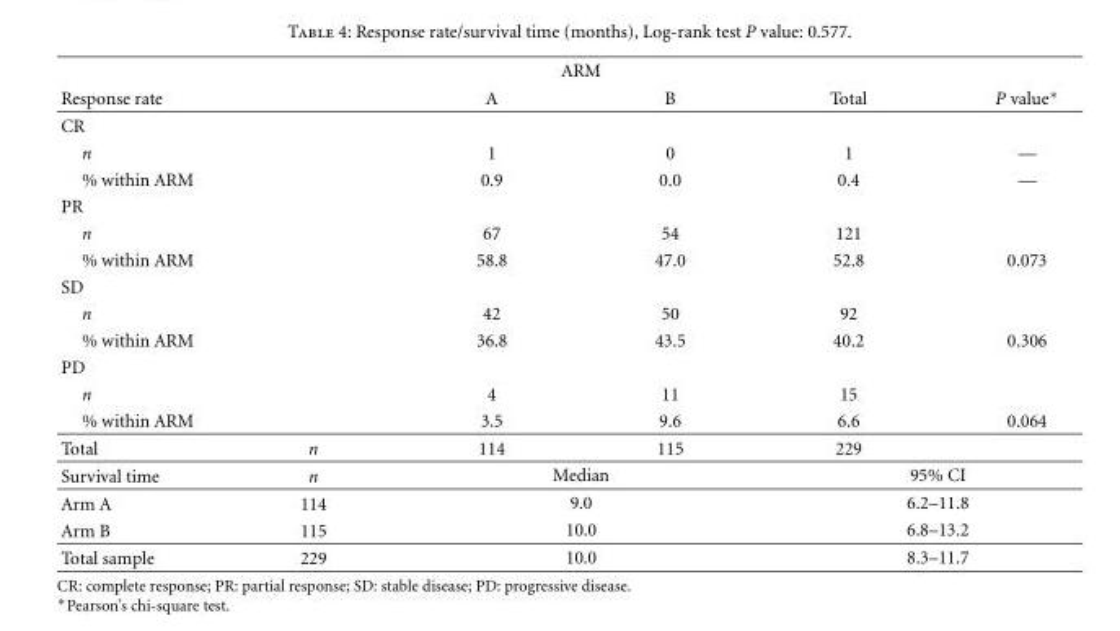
<table><thead><tr><td rowspan="2">Response rate</td><td rowspan="2"></td><td colspan="2">ARM</td><td rowspan="2">Total</td><td rowspan="2">P value∗</td></tr><tr><td>A</td><td>B</td></tr></thead><tbody><tr><td colspan="6">CR</td></tr><tr><td>n</td><td></td><td>1</td><td>0</td><td>1</td><td>—</td></tr><tr><td>% within ARM</td><td></td><td>0.9</td><td>0.0</td><td>0.4</td><td>—</td></tr><tr><td colspan="6">PR</td></tr><tr><td>n</td><td></td><td>67</td><td>54</td><td>121</td><td></td></tr><tr><td>% within ARM</td><td></td><td>58.8</td><td>47.0</td><td>52.8</td><td>0.073</td></tr><tr><td colspan="6">SD</td></tr><tr><td>n</td><td></td><td>42</td><td>50</td><td>92</td><td></td></tr><tr><td>% within ARM</td><td></td><td>36.8</td><td>43.5</td><td>40.2</td><td>0.306</td></tr><tr><td colspan="6">PD</td></tr><tr><td>n</td><td></td><td>4</td><td>11</td><td>15</td><td></td></tr><tr><td>% within ARM</td><td></td><td>3.5</td><td>9.6</td><td>6.6</td><td>0.064</td></tr><tr><td>Total</td><td>n</td><td>114</td><td>115</td><td>229</td><td></td></tr><tr><td>Survival time</td><td>n</td><td colspan="2">Median</td><td colspan="2">95% CI</td></tr><tr><td>Arm A</td><td>114</td><td colspan="2">9.0</td><td colspan="2">6.2–11.8</td></tr><tr><td>Arm B</td><td>115</td><td colspan="2">10.0</td><td colspan="2">6.8–13.2</td></tr><tr><td>Total sample</td><td>229</td><td colspan="2">10.0</td><td colspan="2">8.3–11.7</td></tr></tbody></table>